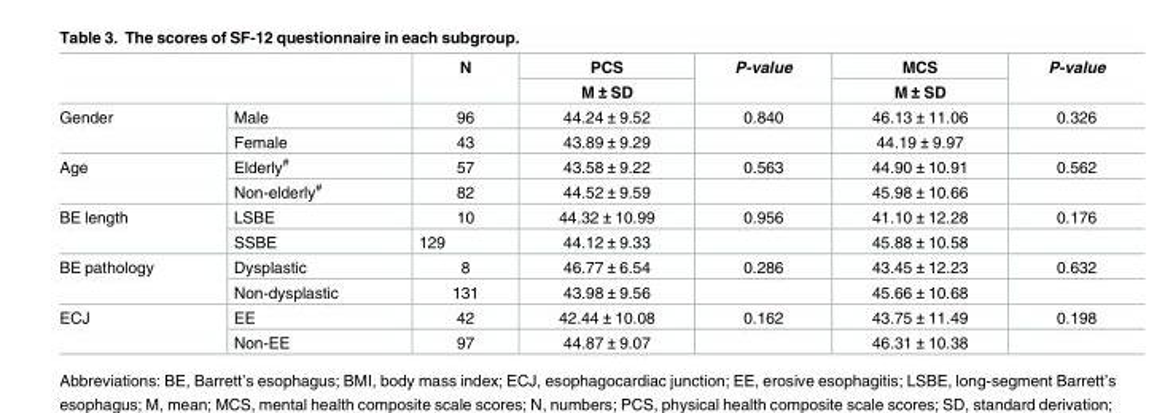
<table><thead><tr><td rowspan="2"></td><td rowspan="2"></td><td rowspan="2">N</td><td rowspan="2">PCS M ± SD</td><td rowspan="2">P-value</td><td rowspan="2">MCS M ± SD</td><td rowspan="2">P-value</td></tr><tr></tr></thead><tbody><tr><td rowspan="2">Gender</td><td>Male</td><td>96</td><td>44.24 ± 9.52</td><td>0.840</td><td>46.13 ± 11.06</td><td>0.326</td></tr><tr><td>Female</td><td>43</td><td>43.89 ± 9.29</td><td></td><td>44.19 ± 9.97</td><td></td></tr><tr><td rowspan="2">Age</td><td>Elderly<sup>#</sup></td><td>57</td><td>43.58 ± 9.22</td><td>0.563</td><td>44.90 ± 10.91</td><td>0.562</td></tr><tr><td>Non-elderly<sup>#</sup></td><td>82</td><td>44.52 ± 9.59</td><td></td><td>45.98 ± 10.66</td><td></td></tr><tr><td rowspan="2">BE length</td><td>LSBE</td><td>10</td><td>44.32 ± 10.99</td><td>0.956</td><td>41.10 ± 12.28</td><td>0.176</td></tr><tr><td>SSBE</td><td>129</td><td>44.12 ± 9.33</td><td></td><td>45.88 ± 10.58</td><td></td></tr><tr><td rowspan="2">BE pathology</td><td>Dysplastic</td><td>8</td><td>46.77 ± 6.54</td><td>0.286</td><td>43.45 ± 12.23</td><td>0.632</td></tr><tr><td>Non-dysplastic</td><td>131</td><td>43.98 ± 9.56</td><td></td><td>45.66 ± 10.68</td><td></td></tr><tr><td rowspan="2">ECJ</td><td>EE</td><td>42</td><td>42.44 ± 10.08</td><td>0.162</td><td>43.75 ± 11.49</td><td>0.198</td></tr><tr><td>Non-EE</td><td>97</td><td>44.87 ± 9.07</td><td></td><td>46.31 ± 10.38</td><td></td></tr></tbody></table>